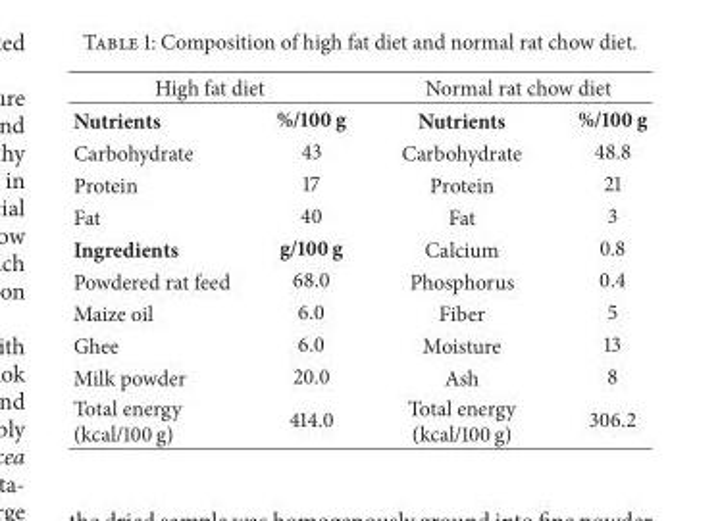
<table><thead><tr><td colspan="2">High fat diet</td><td colspan="2">Normal rat chow diet</td></tr><tr><td>Nutrients</td><td>%/100 g</td><td>Nutrients</td><td>%/100 g</td></tr></thead><tbody><tr><td>Carbohydrate</td><td>43</td><td>Carbohydrate</td><td>48.8</td></tr><tr><td>Protein</td><td>17</td><td>Protein</td><td>21</td></tr><tr><td>Fat</td><td>40</td><td>Fat</td><td>3</td></tr><tr><td>Ingredients</td><td>g/100 g</td><td>Calcium</td><td>0.8</td></tr><tr><td>Powdered rat feed</td><td>68.0</td><td>Phosphorus</td><td>0.4</td></tr><tr><td>Maize oil</td><td>6.0</td><td>Fiber</td><td>5</td></tr><tr><td>Ghee</td><td>6.0</td><td>Moisture</td><td>13</td></tr><tr><td>Milk powder</td><td>20.0</td><td>Ash</td><td>8</td></tr><tr><td>Total energy (kcal/100 g)</td><td>414.0</td><td>Total energy (kcal/100 g)</td><td>306.2</td></tr></tbody></table>